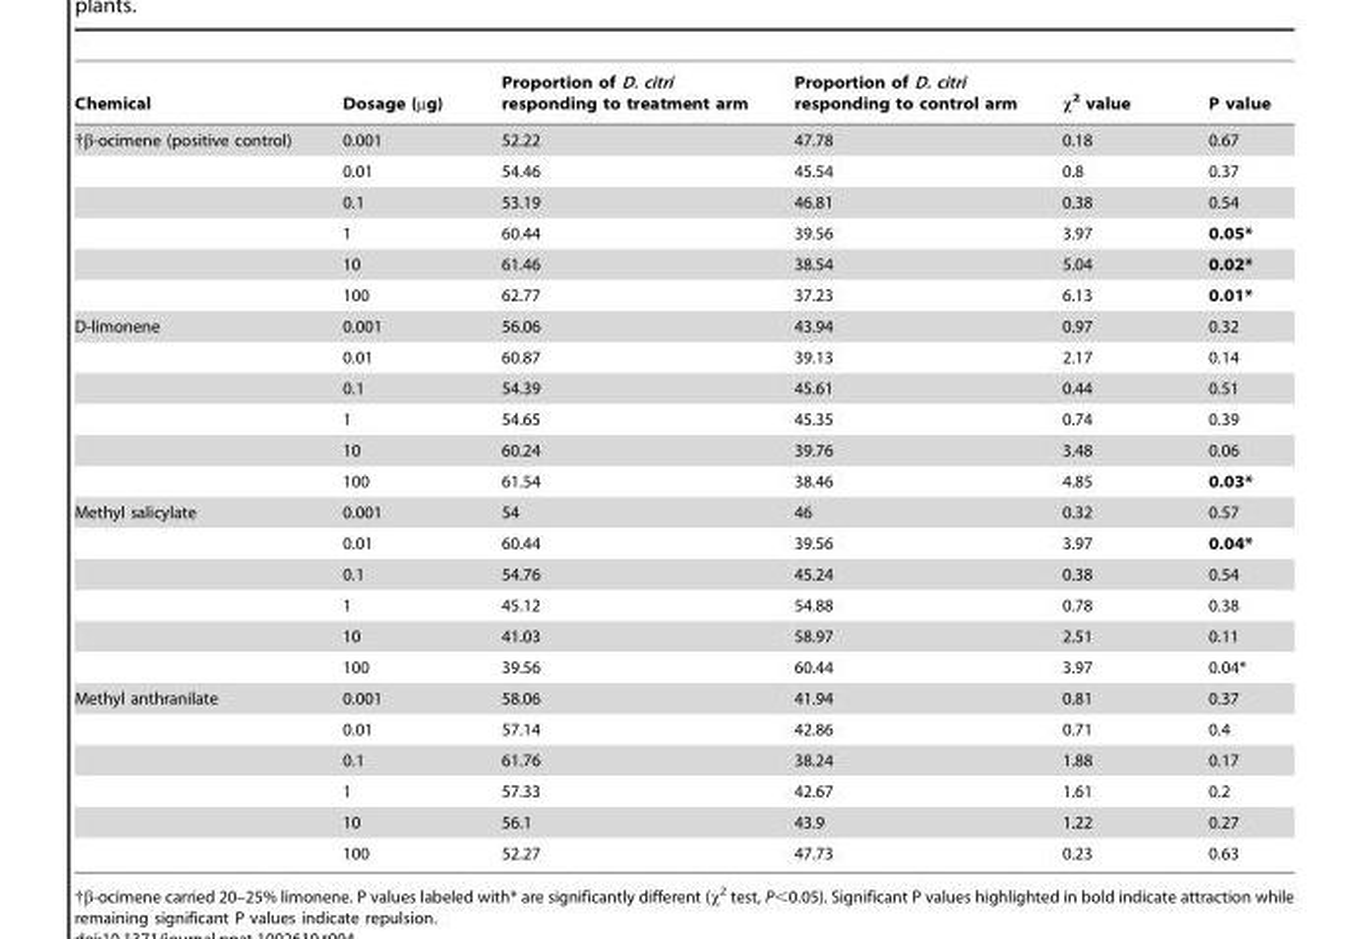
<table><thead><tr><td>Chemical</td><td>Dosage (µg)</td><td>Proportion of D. citri responding to treatment arm</td><td>Proportion of D. citri responding to control arm</td><td>χ<sup>2</sup> value</td><td>P value</td></tr></thead><tbody><tr><td rowspan="6">†β-ocimene (positive control)</td><td>0.001</td><td>52.22</td><td>47.78</td><td>0.18</td><td>0.67</td></tr><tr><td>0.01</td><td>54.46</td><td>45.54</td><td>0.8</td><td>0.37</td></tr><tr><td>0.1</td><td>53.19</td><td>46.81</td><td>0.38</td><td>0.54</td></tr><tr><td>1</td><td>60.44</td><td>39.56</td><td>3.97</td><td>0.05*</td></tr><tr><td>10</td><td>61.46</td><td>38.54</td><td>5.04</td><td>0.02*</td></tr><tr><td>100</td><td>62.77</td><td>37.23</td><td>6.13</td><td>0.01*</td></tr><tr><td rowspan="6">D-limonene</td><td>0.001</td><td>56.06</td><td>43.94</td><td>0.97</td><td>0.32</td></tr><tr><td>0.01</td><td>60.87</td><td>39.13</td><td>2.17</td><td>0.14</td></tr><tr><td>0.1</td><td>54.39</td><td>45.61</td><td>0.44</td><td>0.51</td></tr><tr><td>1</td><td>54.65</td><td>45.35</td><td>0.74</td><td>0.39</td></tr><tr><td>10</td><td>60.24</td><td>39.76</td><td>3.48</td><td>0.06</td></tr><tr><td>100</td><td>61.54</td><td>38.46</td><td>4.85</td><td>0.03*</td></tr><tr><td rowspan="6">Methyl salicylate</td><td>0.001</td><td>54</td><td>46</td><td>0.32</td><td>0.57</td></tr><tr><td>0.01</td><td>60.44</td><td>39.56</td><td>3.97</td><td>0.04*</td></tr><tr><td>0.1</td><td>54.76</td><td>45.24</td><td>0.38</td><td>0.54</td></tr><tr><td>1</td><td>45.12</td><td>54.88</td><td>0.78</td><td>0.38</td></tr><tr><td>10</td><td>41.03</td><td>58.97</td><td>2.51</td><td>0.11</td></tr><tr><td>100</td><td>39.56</td><td>60.44</td><td>3.97</td><td>0.04*</td></tr><tr><td rowspan="6">Methyl anthranilate</td><td>0.001</td><td>58.06</td><td>41.94</td><td>0.81</td><td>0.37</td></tr><tr><td>0.01</td><td>57.14</td><td>42.86</td><td>0.71</td><td>0.4</td></tr><tr><td>0.1</td><td>61.76</td><td>38.24</td><td>1.88</td><td>0.17</td></tr><tr><td>1</td><td>57.33</td><td>42.67</td><td>1.61</td><td>0.2</td></tr><tr><td>10</td><td>56.1</td><td>43.9</td><td>1.22</td><td>0.27</td></tr><tr><td>100</td><td>52.27</td><td>47.73</td><td>0.23</td><td>0.63</td></tr></tbody></table>